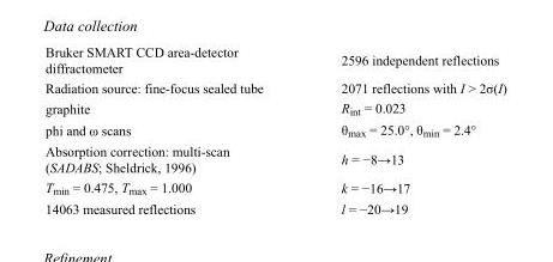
<table><tbody><tr><td>Bruker SMART CCD area-detector diffractometer</td><td>2596 independent reflections</td></tr><tr><td>Radiation source: fine-focus sealed tube</td><td>2071 reflections with I &gt; 2σ(I)</td></tr><tr><td>graphite</td><td>R<sub>int</sub> = 0.023</td></tr><tr><td>phi and ω scans</td><td>θ<sub>max</sub> = 25.0°, θ<sub>min</sub> = 2.4°</td></tr><tr><td>Absorption correction: multi-scan (SADABS; Sheldrick, 1996)</td><td>h = −8→13</td></tr><tr><td>T<sub>min</sub> = 0.475, T<sub>max</sub> = 1.000</td><td>k = −16→17</td></tr><tr><td>14063 measured reflections</td><td>l = −20→19</td></tr></tbody></table>